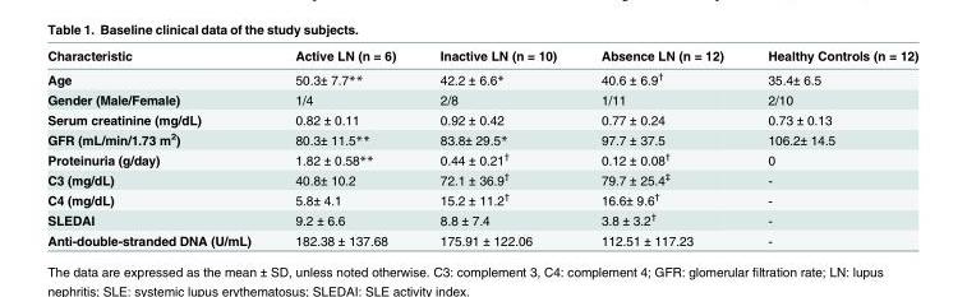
<table><thead><tr><td>Characteristic</td><td>Active LN (n = 6)</td><td>Inactive LN (n = 10)</td><td>Absence LN (n = 12)</td><td>Healthy Controls (n = 12)</td></tr></thead><tbody><tr><td>Age</td><td>50.3± 7.7**</td><td>42.2 ± 6.6*</td><td>40.6 ± 6.9<sup>†</sup></td><td>35.4± 6.5</td></tr><tr><td>Gender (Male/Female)</td><td>1/4</td><td>2/8</td><td>1/11</td><td>2/10</td></tr><tr><td>Serum creatinine (mg/dL)</td><td>0.82 ± 0.11</td><td>0.92 ± 0.42</td><td>0.77 ± 0.24</td><td>0.73 ± 0.13</td></tr><tr><td>GFR (mL/min/1.73 m<sup>2</sup>)</td><td>80.3± 11.5**</td><td>83.8± 29.5*</td><td>97.7 ± 37.5</td><td>106.2± 14.5</td></tr><tr><td>Proteinuria (g/day)</td><td>1.82 ± 0.58**</td><td>0.44 ± 0.21<sup>†</sup></td><td>0.12 ± 0.08<sup>†</sup></td><td>0</td></tr><tr><td>C3 (mg/dL)</td><td>40.8± 10.2</td><td>72.1 ± 36.9<sup>†</sup></td><td>79.7 ± 25.4<sup>‡</sup></td><td>-</td></tr><tr><td>C4 (mg/dL)</td><td>5.8± 4.1</td><td>15.2 ± 11.2<sup>†</sup></td><td>16.6± 9.6<sup>†</sup></td><td>-</td></tr><tr><td>SLEDAI</td><td>9.2 ± 6.6</td><td>8.8 ± 7.4</td><td>3.8 ± 3.2<sup>†</sup></td><td>-</td></tr><tr><td>Anti-double-stranded DNA (U/mL)</td><td>182.38 ± 137.68</td><td>175.91 ± 122.06</td><td>112.51 ± 117.23</td><td>-</td></tr></tbody></table>